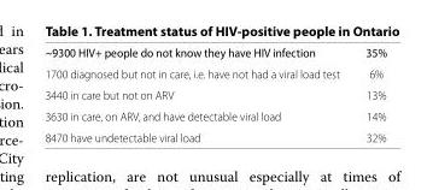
<table><tbody><tr><td>~9300 HIV+ people do not know they have HIV infection</td><td>35%</td></tr><tr><td>1700 diagnosed but not in care, i.e. have not had a viral load test</td><td>6%</td></tr><tr><td>3440 in care but not on ARV</td><td>13%</td></tr><tr><td>3630 in care, on ARV, and have detectable viral load</td><td>14%</td></tr><tr><td>8470 have undetectable viral load</td><td>32%</td></tr></tbody></table>